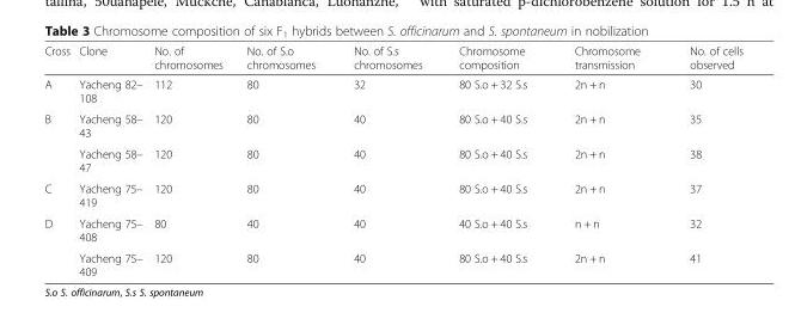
<table><thead><tr><td>Cross</td><td>Clone</td><td>No. of chromosomes</td><td>No. of S.o chromosomes</td><td>No. of S.s chromosomes</td><td>Chromosome composition</td><td>Chromosome transmission</td><td>No. of cells observed</td></tr></thead><tbody><tr><td>A</td><td>Yacheng 82– 108</td><td>112</td><td>80</td><td>32</td><td>80 S.o + 32 S.s</td><td>2n + n</td><td>30</td></tr><tr><td rowspan="2">B</td><td>Yacheng 58– 43</td><td>120</td><td>80</td><td>40</td><td>80 S.o + 40 S.s</td><td>2n + n</td><td>35</td></tr><tr><td>Yacheng 58– 47</td><td>120</td><td>80</td><td>40</td><td>80 S.o + 40 S.s</td><td>2n + n</td><td>38</td></tr><tr><td>C</td><td>Yacheng 75– 419</td><td>120</td><td>80</td><td>40</td><td>80 S.o + 40 S.s</td><td>2n + n</td><td>37</td></tr><tr><td rowspan="2">D</td><td>Yacheng 75– 408</td><td>80</td><td>40</td><td>40</td><td>40 S.o + 40 S.s</td><td>n + n</td><td>32</td></tr><tr><td>Yacheng 75– 409</td><td>120</td><td>80</td><td>40</td><td>80 S.o + 40 S.s</td><td>2n + n</td><td>41</td></tr></tbody></table>